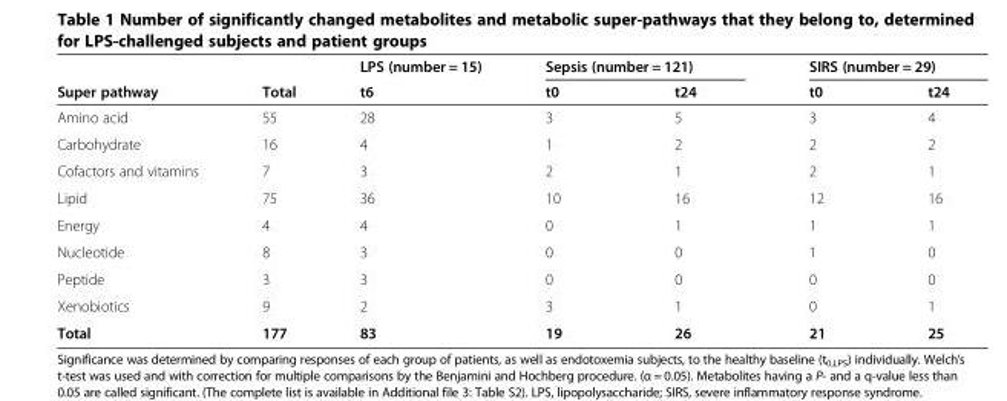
<table><thead><tr><td rowspan="2">Super pathway</td><td rowspan="2">Total</td><td rowspan="2">LPS (number = 15) t6</td><td colspan="2">Sepsis (number = 121)</td><td colspan="2">SIRS (number = 29)</td></tr><tr><td>t0</td><td>t24</td><td>t0</td><td>t24</td></tr></thead><tbody><tr><td>Amino acid</td><td>55</td><td>28</td><td>3</td><td>5</td><td>3</td><td>4</td></tr><tr><td>Carbohydrate</td><td>16</td><td>4</td><td>1</td><td>2</td><td>2</td><td>2</td></tr><tr><td>Cofactors and vitamins</td><td>7</td><td>3</td><td>2</td><td>1</td><td>2</td><td>1</td></tr><tr><td>Lipid</td><td>75</td><td>36</td><td>10</td><td>16</td><td>12</td><td>16</td></tr><tr><td>Energy</td><td>4</td><td>4</td><td>0</td><td>1</td><td>1</td><td>1</td></tr><tr><td>Nucleotide</td><td>8</td><td>3</td><td>0</td><td>0</td><td>1</td><td>0</td></tr><tr><td>Peptide</td><td>3</td><td>3</td><td>0</td><td>0</td><td>0</td><td>0</td></tr><tr><td>Xenobiotics</td><td>9</td><td>2</td><td>3</td><td>1</td><td>0</td><td>1</td></tr><tr><td>Total</td><td>177</td><td>83</td><td>19</td><td>26</td><td>21</td><td>25</td></tr></tbody></table>